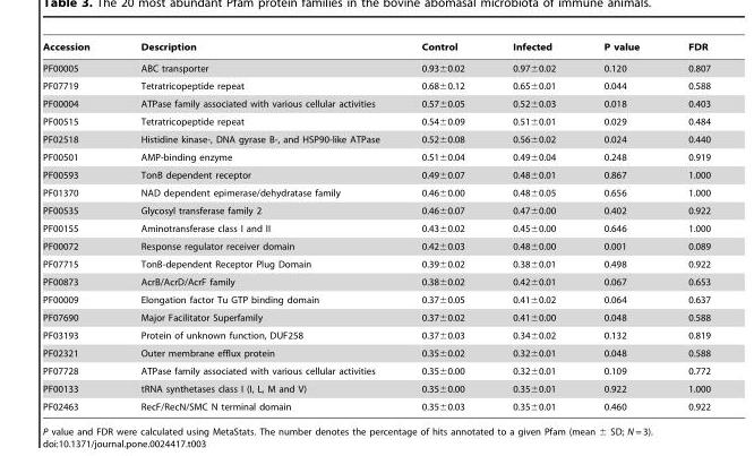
<table><thead><tr><td>Accession</td><td>Description</td><td>Control</td><td>Infected</td><td>P value</td><td>FDR</td></tr></thead><tbody><tr><td>PF00005</td><td>ABC transporter</td><td>0.93±0.02</td><td>0.97±0.02</td><td>0.120</td><td>0.807</td></tr><tr><td>PF07719</td><td>Tetratricopeptide repeat</td><td>0.68±0.12</td><td>0.65±0.01</td><td>0.044</td><td>0.588</td></tr><tr><td>PF00004</td><td>ATPase family associated with various cellular activities</td><td>0.57±0.05</td><td>0.52±0.03</td><td>0.018</td><td>0.403</td></tr><tr><td>PF00515</td><td>Tetratricopeptide repeat</td><td>0.54±0.09</td><td>0.51±0.01</td><td>0.029</td><td>0.484</td></tr><tr><td>PF02518</td><td>Histidine kinase-, DNA gyrase B-, and HSP90-like ATPase</td><td>0.52±0.08</td><td>0.56±0.02</td><td>0.024</td><td>0.440</td></tr><tr><td>PF00501</td><td>AMP-binding enzyme</td><td>0.51±0.04</td><td>0.49±0.04</td><td>0.248</td><td>0.919</td></tr><tr><td>PF00593</td><td>TonB dependent receptor</td><td>0.49±0.07</td><td>0.48±0.01</td><td>0.867</td><td>1.000</td></tr><tr><td>PF01370</td><td>NAD dependent epimerase/dehydratase family</td><td>0.46±0.00</td><td>0.48±0.05</td><td>0.656</td><td>1.000</td></tr><tr><td>PF00535</td><td>Glycosyl transferase family 2</td><td>0.46±0.07</td><td>0.47±0.00</td><td>0.402</td><td>0.922</td></tr><tr><td>PF00155</td><td>Aminotransferase class I and II</td><td>0.43±0.02</td><td>0.45±0.00</td><td>0.646</td><td>1.000</td></tr><tr><td>PF00072</td><td>Response regulator receiver domain</td><td>0.42±0.03</td><td>0.48±0.00</td><td>0.001</td><td>0.089</td></tr><tr><td>PF07715</td><td>TonB-dependent Receptor Plug Domain</td><td>0.39±0.02</td><td>0.38±0.01</td><td>0.498</td><td>0.922</td></tr><tr><td>PF00873</td><td>AcrB/AcrD/AcrF family</td><td>0.38±0.02</td><td>0.42±0.01</td><td>0.067</td><td>0.653</td></tr><tr><td>PF00009</td><td>Elongation factor Tu GTP binding domain</td><td>0.37±0.05</td><td>0.41±0.02</td><td>0.064</td><td>0.637</td></tr><tr><td>PF07690</td><td>Major Facilitator Superfamily</td><td>0.37±0.02</td><td>0.41±0.00</td><td>0.048</td><td>0.588</td></tr><tr><td>PF03193</td><td>Protein of unknown function, DUF258</td><td>0.37±0.03</td><td>0.34±0.02</td><td>0.132</td><td>0.819</td></tr><tr><td>PF02321</td><td>Outer membrane efflux protein</td><td>0.35±0.02</td><td>0.32±0.01</td><td>0.048</td><td>0.588</td></tr><tr><td>PF07728</td><td>ATPase family associated with various cellular activities</td><td>0.35±0.00</td><td>0.32±0.01</td><td>0.109</td><td>0.772</td></tr><tr><td>PF00133</td><td>tRNA synthetases class I (I, L, M and V)</td><td>0.35±0.00</td><td>0.35±0.01</td><td>0.922</td><td>1.000</td></tr><tr><td>PF02463</td><td>RecF/RecN/SMC N terminal domain</td><td>0.35±0.03</td><td>0.35±0.01</td><td>0.460</td><td>0.922</td></tr></tbody></table>